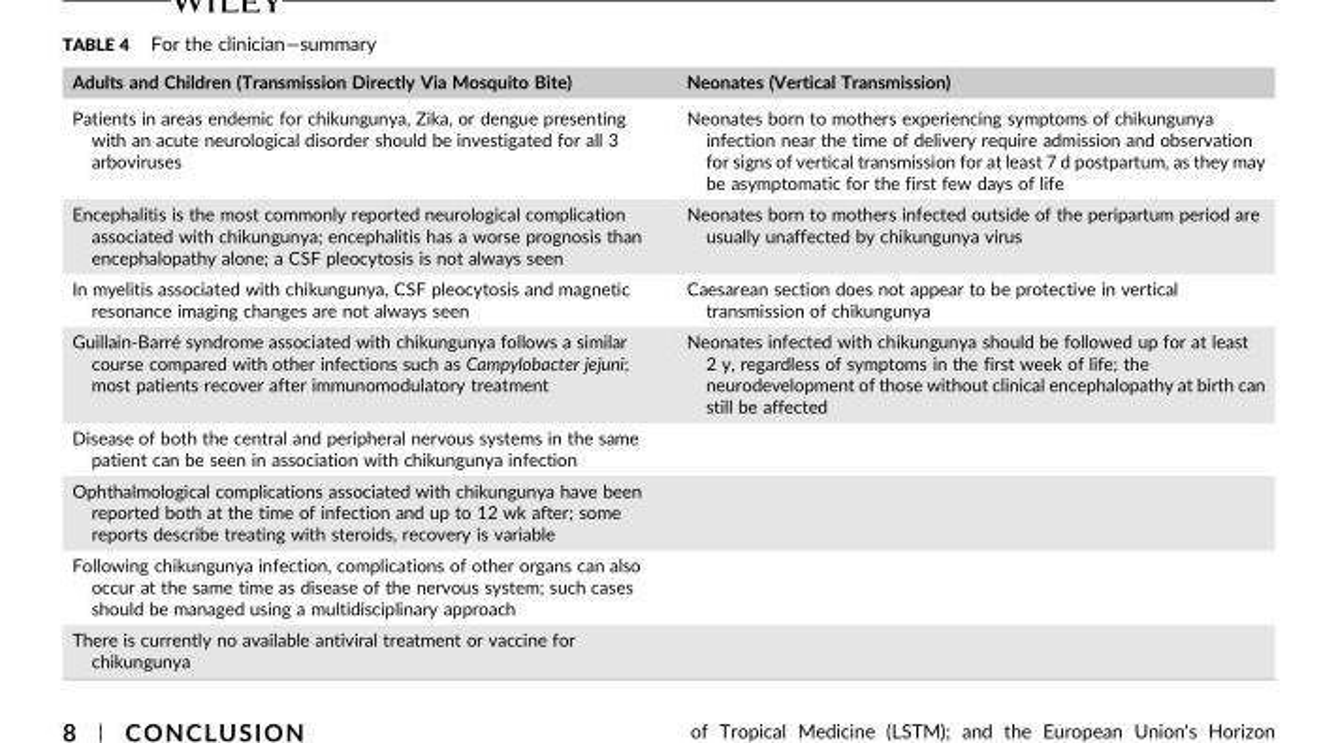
<table><thead><tr><td>Adults and Children (Transmission Directly Via Mosquito Bite)</td><td>Neonates (Vertical Transmission)</td></tr></thead><tbody><tr><td>Patients in areas endemic for chikungunya, Zika, or dengue presenting with an acute neurological disorder should be investigated for all 3 arboviruses</td><td>Neonates born to mothers experiencing symptoms of chikungunya infection near the time of delivery require admission and observation for signs of vertical transmission for at least 7 d postpartum, as they may be asymptomatic for the first few days of life</td></tr><tr><td>Encephalitis is the most commonly reported neurological complication associated with chikungunya; encephalitis has a worse prognosis than encephalopathy alone; a CSF pleocytosis is not always seen</td><td>Neonates born to mothers infected outside of the peripartum period are usually unaffected by chikungunya virus</td></tr><tr><td>In myelitis associated with chikungunya, CSF pleocytosis and magnetic resonance imaging changes are not always seen</td><td>Caesarean section does not appear to be protective in vertical transmission of chikungunya</td></tr><tr><td>Guillain‐Barré syndrome associated with chikungunya follows a similar course compared with other infections such as Campylobacter jejuni; most patients recover after immunomodulatory treatment</td><td>Neonates infected with chikungunya should be followed up for at least 2 y, regardless of symptoms in the first week of life; the neurodevelopment of those without clinical encephalopathy at birth can still be affected</td></tr><tr><td colspan="2">Disease of both the central and peripheral nervous systems in the same patient can be seen in association with chikungunya infection</td></tr><tr><td colspan="2">Ophthalmological complications associated with chikungunya have been reported both at the time of infection and up to 12 wk after; some reports describe treating with steroids, recovery is variable</td></tr><tr><td colspan="2">Following chikungunya infection, complications of other organs can also occur at the same time as disease of the nervous system; such cases should be managed using a multidisciplinary approach</td></tr><tr><td>There is currently no available antiviral treatment or vaccine for chikungunya</td><td></td></tr></tbody></table>